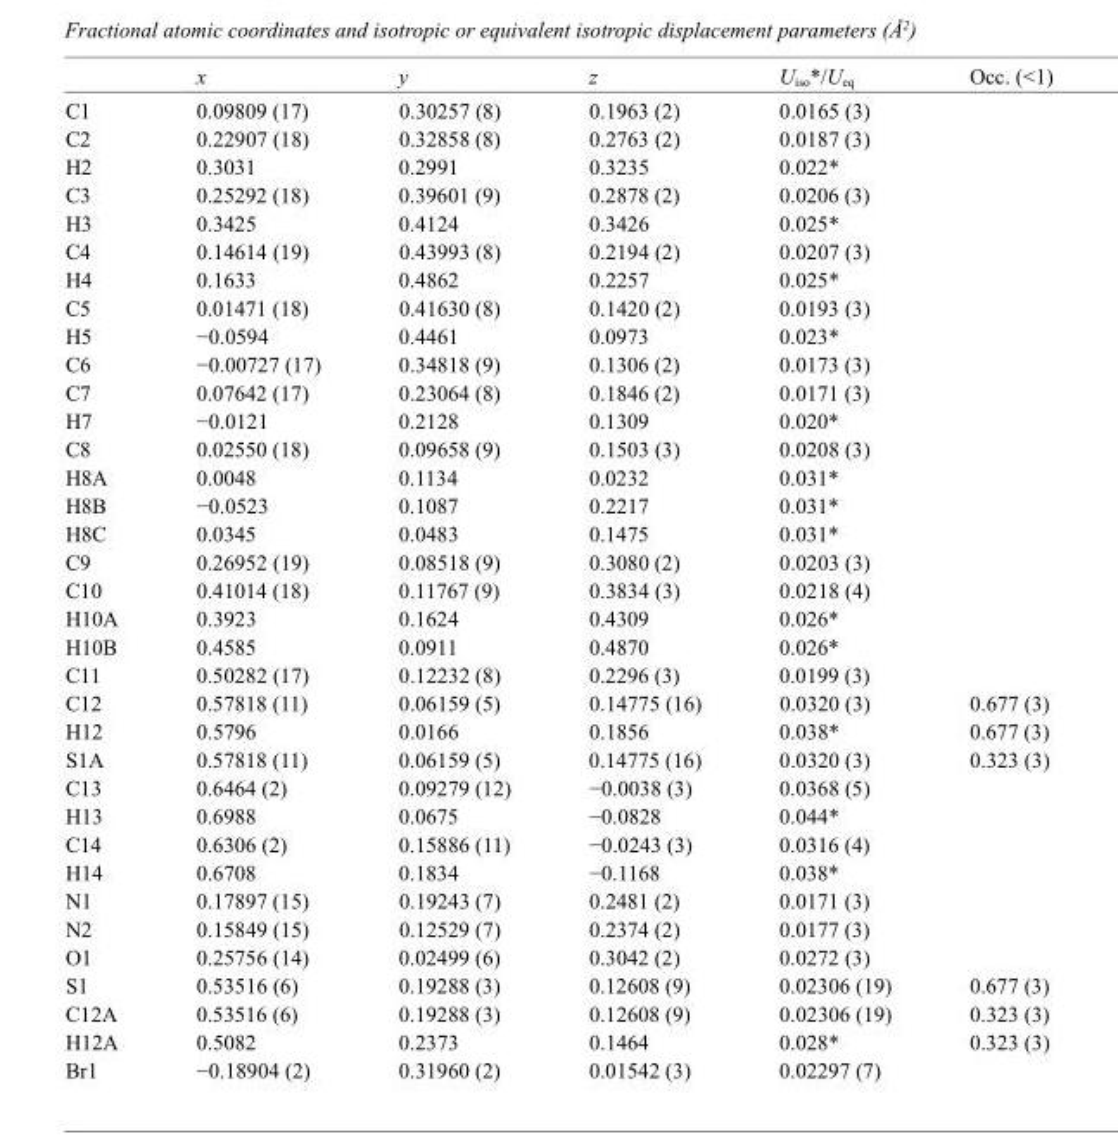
<table><thead><tr><td></td><td>x</td><td>y</td><td>z</td><td>U<sub>iso</sub>*/U<sub>eq</sub></td><td>Occ. (&lt;1)</td></tr></thead><tbody><tr><td>C1</td><td>0.09809 (17)</td><td>0.30257 (8)</td><td>0.1963 (2)</td><td>0.0165 (3)</td><td></td></tr><tr><td>C2</td><td>0.22907 (18)</td><td>0.32858 (8)</td><td>0.2763 (2)</td><td>0.0187 (3)</td><td></td></tr><tr><td>H2</td><td>0.3031</td><td>0.2991</td><td>0.3235</td><td>0.022*</td><td></td></tr><tr><td>C3</td><td>0.25292 (18)</td><td>0.39601 (9)</td><td>0.2878 (2)</td><td>0.0206 (3)</td><td></td></tr><tr><td>H3</td><td>0.3425</td><td>0.4124</td><td>0.3426</td><td>0.025*</td><td></td></tr><tr><td>C4</td><td>0.14614 (19)</td><td>0.43993 (8)</td><td>0.2194 (2)</td><td>0.0207 (3)</td><td></td></tr><tr><td>H4</td><td>0.1633</td><td>0.4862</td><td>0.2257</td><td>0.025*</td><td></td></tr><tr><td>C5</td><td>0.01471 (18)</td><td>0.41630 (8)</td><td>0.1420 (2)</td><td>0.0193 (3)</td><td></td></tr><tr><td>H5</td><td>−0.0594</td><td>0.4461</td><td>0.0973</td><td>0.023*</td><td></td></tr><tr><td>C6</td><td>−0.00727 (17)</td><td>0.34818 (9)</td><td>0.1306 (2)</td><td>0.0173 (3)</td><td></td></tr><tr><td>C7</td><td>0.07642 (17)</td><td>0.23064 (8)</td><td>0.1846 (2)</td><td>0.0171 (3)</td><td></td></tr><tr><td>H7</td><td>−0.0121</td><td>0.2128</td><td>0.1309</td><td>0.020*</td><td></td></tr><tr><td>C8</td><td>0.02550 (18)</td><td>0.09658 (9)</td><td>0.1503 (3)</td><td>0.0208 (3)</td><td></td></tr><tr><td>H8A</td><td>0.0048</td><td>0.1134</td><td>0.0232</td><td>0.031*</td><td></td></tr><tr><td>H8B</td><td>−0.0523</td><td>0.1087</td><td>0.2217</td><td>0.031*</td><td></td></tr><tr><td>H8C</td><td>0.0345</td><td>0.0483</td><td>0.1475</td><td>0.031*</td><td></td></tr><tr><td>C9</td><td>0.26952 (19)</td><td>0.08518 (9)</td><td>0.3080 (2)</td><td>0.0203 (3)</td><td></td></tr><tr><td>C10</td><td>0.41014 (18)</td><td>0.11767 (9)</td><td>0.3834 (3)</td><td>0.0218 (4)</td><td></td></tr><tr><td>H10A</td><td>0.3923</td><td>0.1624</td><td>0.4309</td><td>0.026*</td><td></td></tr><tr><td>H10B</td><td>0.4585</td><td>0.0911</td><td>0.4870</td><td>0.026*</td><td></td></tr><tr><td>C11</td><td>0.50282 (17)</td><td>0.12232 (8)</td><td>0.2296 (3)</td><td>0.0199 (3)</td><td></td></tr><tr><td>C12</td><td>0.57818 (11)</td><td>0.06159 (5)</td><td>0.14775 (16)</td><td>0.0320 (3)</td><td>0.677 (3)</td></tr><tr><td>H12</td><td>0.5796</td><td>0.0166</td><td>0.1856</td><td>0.038*</td><td>0.677 (3)</td></tr><tr><td>S1A</td><td>0.57818 (11)</td><td>0.06159 (5)</td><td>0.14775 (16)</td><td>0.0320 (3)</td><td>0.323 (3)</td></tr><tr><td>C13</td><td>0.6464 (2)</td><td>0.09279 (12)</td><td>−0.0038 (3)</td><td>0.0368 (5)</td><td></td></tr><tr><td>H13</td><td>0.6988</td><td>0.0675</td><td>−0.0828</td><td>0.044*</td><td></td></tr><tr><td>C14</td><td>0.6306 (2)</td><td>0.15886 (11)</td><td>−0.0243 (3)</td><td>0.0316 (4)</td><td></td></tr><tr><td>H14</td><td>0.6708</td><td>0.1834</td><td>−0.1168</td><td>0.038*</td><td></td></tr><tr><td>N1</td><td>0.17897 (15)</td><td>0.19243 (7)</td><td>0.2481 (2)</td><td>0.0171 (3)</td><td></td></tr><tr><td>N2</td><td>0.15849 (15)</td><td>0.12529 (7)</td><td>0.2374 (2)</td><td>0.0177 (3)</td><td></td></tr><tr><td>O1</td><td>0.25756 (14)</td><td>0.02499 (6)</td><td>0.3042 (2)</td><td>0.0272 (3)</td><td></td></tr><tr><td>S1</td><td>0.53516 (6)</td><td>0.19288 (3)</td><td>0.12608 (9)</td><td>0.02306 (19)</td><td>0.677 (3)</td></tr><tr><td>C12A</td><td>0.53516 (6)</td><td>0.19288 (3)</td><td>0.12608 (9)</td><td>0.02306 (19)</td><td>0.323 (3)</td></tr><tr><td>H12A</td><td>0.5082</td><td>0.2373</td><td>0.1464</td><td>0.028*</td><td>0.323 (3)</td></tr><tr><td>Br1</td><td>−0.18904 (2)</td><td>0.31960 (2)</td><td>0.01542 (3)</td><td>0.02297 (7)</td><td></td></tr></tbody></table>